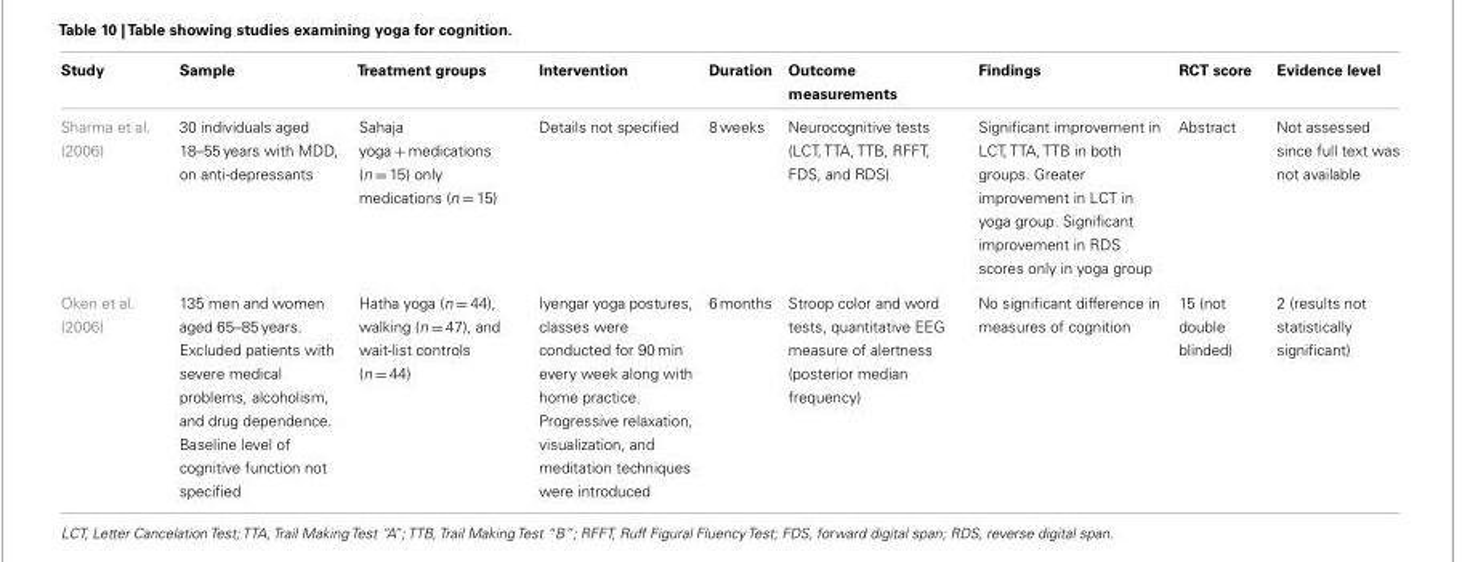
<table><thead><tr><td>Study</td><td>Sample</td><td>Treatment groups</td><td>Intervention</td><td>Duration</td><td>Outcome measurements</td><td>Findings</td><td>RCT score</td><td>Evidence level</td></tr></thead><tbody><tr><td>Sharma et al. (2006)</td><td>30 individuals aged 18–55 years with MDD, on anti-depressants</td><td>Sahaja yoga + medications (n = 15) only medications (n = 15)</td><td>Details not specified</td><td>8 weeks</td><td>Neurocognitive tests (LCT, TTA, TTB, RFFT, FDS, and RDS)</td><td>Significant improvement in LCT, TTA, TTB in both groups. Greater improvement in LCT in yoga group. Significant improvement in RDS scores only in yoga group</td><td>Abstract</td><td>Not assessed since full text was not available</td></tr><tr><td>Oken et al. (2006)</td><td>135 men and women aged 65–85 years. Excluded patients with severe medical problems, alcoholism, and drug dependence. Baseline level of cognitive function not specified</td><td>Hatha yoga (n = 44), walking (n = 47), and wait-list controls (n = 44)</td><td>Iyengar yoga postures, classes were conducted for 90 min every week along with home practice. Progressive relaxation, visualization, and meditation techniques were introduced</td><td>6 months</td><td>Stroop color and word tests, quantitative EEG measure of alertness (posterior median frequency)</td><td>No significant difference in measures of cognition</td><td>15 (not double blinded)</td><td>2 (results not statistically significant)</td></tr></tbody></table>